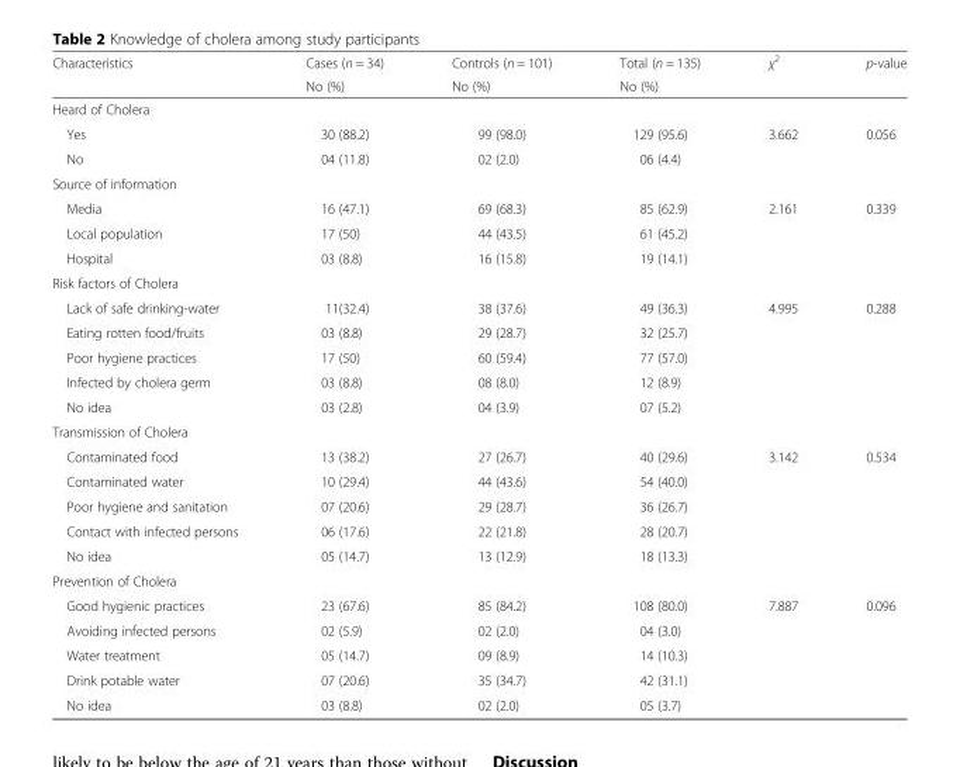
<table><thead><tr><td rowspan="2">Characteristics</td><td rowspan="2">Cases (n = 34) No (%)</td><td rowspan="2">Controls (n = 101) No (%)</td><td rowspan="2">Total (n = 135) No (%)</td><td rowspan="2">χ<sup>2</sup></td><td rowspan="2">p-value</td></tr><tr></tr></thead><tbody><tr><td colspan="6">Heard of Cholera</td></tr><tr><td>Yes</td><td>30 (88.2)</td><td>99 (98.0)</td><td>129 (95.6)</td><td rowspan="2">3.662</td><td rowspan="2">0.056</td></tr><tr><td>No</td><td>04 (11.8)</td><td>02 (2.0)</td><td>06 (4.4)</td></tr><tr><td colspan="6">Source of information</td></tr><tr><td>Media</td><td>16 (47.1)</td><td>69 (68.3)</td><td>85 (62.9)</td><td rowspan="3">2.161</td><td rowspan="3">0.339</td></tr><tr><td>Local population</td><td>17 (50)</td><td>44 (43.5)</td><td>61 (45.2)</td></tr><tr><td>Hospital</td><td>03 (8.8)</td><td>16 (15.8)</td><td>19 (14.1)</td></tr><tr><td colspan="6">Risk factors of Cholera</td></tr><tr><td>Lack of safe drinking-water</td><td>11(32.4)</td><td>38 (37.6)</td><td>49 (36.3)</td><td rowspan="5">4.995</td><td rowspan="5">0.288</td></tr><tr><td>Eating rotten food/fruits</td><td>03 (8.8)</td><td>29 (28.7)</td><td>32 (25.7)</td></tr><tr><td>Poor hygiene practices</td><td>17 (50)</td><td>60 (59.4)</td><td>77 (57.0)</td></tr><tr><td>Infected by cholera germ</td><td>03 (8.8)</td><td>08 (8.0)</td><td>12 (8.9)</td></tr><tr><td>No idea</td><td>03 (2.8)</td><td>04 (3.9)</td><td>07 (5.2)</td></tr><tr><td colspan="6">Transmission of Cholera</td></tr><tr><td>Contaminated food</td><td>13 (38.2)</td><td>27 (26.7)</td><td>40 (29.6)</td><td rowspan="5">3.142</td><td rowspan="5">0.534</td></tr><tr><td>Contaminated water</td><td>10 (29.4)</td><td>44 (43.6)</td><td>54 (40.0)</td></tr><tr><td>Poor hygiene and sanitation</td><td>07 (20.6)</td><td>29 (28.7)</td><td>36 (26.7)</td></tr><tr><td>Contact with infected persons</td><td>06 (17.6)</td><td>22 (21.8)</td><td>28 (20.7)</td></tr><tr><td>No idea</td><td>05 (14.7)</td><td>13 (12.9)</td><td>18 (13.3)</td></tr><tr><td colspan="6">Prevention of Cholera</td></tr><tr><td>Good hygienic practices</td><td>23 (67.6)</td><td>85 (84.2)</td><td>108 (80.0)</td><td rowspan="5">7.887</td><td rowspan="5">0.096</td></tr><tr><td>Avoiding infected persons</td><td>02 (5.9)</td><td>02 (2.0)</td><td>04 (3.0)</td></tr><tr><td>Water treatment</td><td>05 (14.7)</td><td>09 (8.9)</td><td>14 (10.3)</td></tr><tr><td>Drink potable water</td><td>07 (20.6)</td><td>35 (34.7)</td><td>42 (31.1)</td></tr><tr><td>No idea</td><td>03 (8.8)</td><td>02 (2.0)</td><td>05 (3.7)</td></tr></tbody></table>